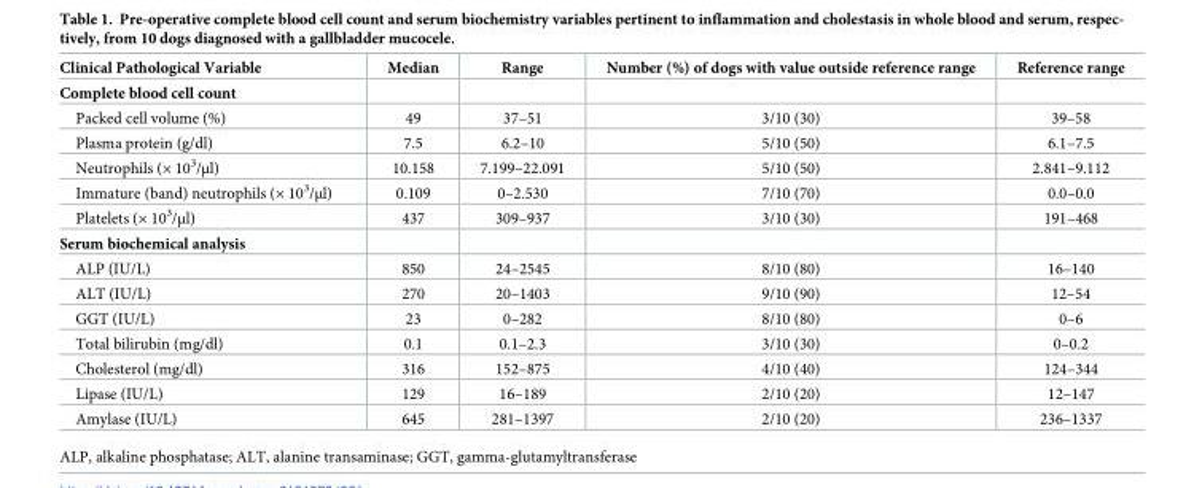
<table><thead><tr><td>Clinical Pathological Variable</td><td>Median</td><td>Range</td><td>Number (%) of dogs with value outside reference range</td><td>Reference range</td></tr></thead><tbody><tr><td colspan="5">Complete blood cell count</td></tr><tr><td>Packed cell volume (%)</td><td>49</td><td>37–51</td><td>3/10 (30)</td><td>39–58</td></tr><tr><td>Plasma protein (g/dl)</td><td>7.5</td><td>6.2–10</td><td>5/10 (50)</td><td>6.1–7.5</td></tr><tr><td>Neutrophils (× 10<sup>3</sup>/μl)</td><td>10.158</td><td>7.199–22.091</td><td>5/10 (50)</td><td>2.841–9.112</td></tr><tr><td>Immature (band) neutrophils (× 10<sup>3</sup>/μl)</td><td>0.109</td><td>0–2.530</td><td>7/10 (70)</td><td>0.0–0.0</td></tr><tr><td>Platelets (× 10<sup>3</sup>/μl)</td><td>437</td><td>309–937</td><td>3/10 (30)</td><td>191–468</td></tr><tr><td colspan="5">Serum biochemical analysis</td></tr><tr><td>ALP (IU/L)</td><td>850</td><td>24–2545</td><td>8/10 (80)</td><td>16–140</td></tr><tr><td>ALT (IU/L)</td><td>270</td><td>20–1403</td><td>9/10 (90)</td><td>12–54</td></tr><tr><td>GGT (IU/L)</td><td>23</td><td>0–282</td><td>8/10 (80)</td><td>0–6</td></tr><tr><td>Total bilirubin (mg/dl)</td><td>0.1</td><td>0.1–2.3</td><td>3/10 (30)</td><td>0–0.2</td></tr><tr><td>Cholesterol (mg/dl)</td><td>316</td><td>152–875</td><td>4/10 (40)</td><td>124–344</td></tr><tr><td>Lipase (IU/L)</td><td>129</td><td>16–189</td><td>2/10 (20)</td><td>12–147</td></tr><tr><td>Amylase (IU/L)</td><td>645</td><td>281–1397</td><td>2/10 (20)</td><td>236–1337</td></tr></tbody></table>